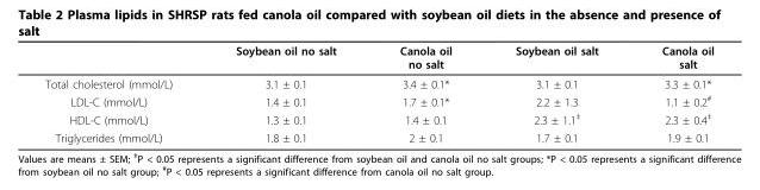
<table><thead><tr><td></td><td>Soybean oil no salt</td><td>Canola oil no salt</td><td>Soybean oil salt</td><td>Canola oil salt</td></tr></thead><tbody><tr><td>Total cholesterol (mmol/L)</td><td>3.1 ± 0.1</td><td>3.4 ± 0.1*</td><td>3.1 ± 0.1</td><td>3.3 ± 0.1*</td></tr><tr><td>LDL-C (mmol/L)</td><td>1.4 ± 0.1</td><td>1.7 ± 0.1*</td><td>2.2 ± 1.3</td><td>1.1 ± 0.2<sup>#</sup></td></tr><tr><td>HDL-C (mmol/L)</td><td>1.3 ± 0.1</td><td>1.4 ± 0.1</td><td>2.3 ± 1.1<sup>‡</sup></td><td>2.3 ± 0.4<sup>‡</sup></td></tr><tr><td>Triglycerides (mmol/L)</td><td>1.8 ± 0.1</td><td>2 ± 0.1</td><td>1.7 ± 0.1</td><td>1.9 ± 0.1</td></tr></tbody></table>